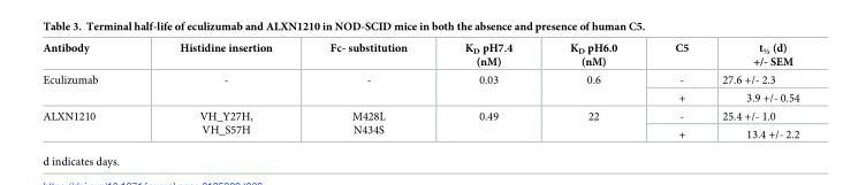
<table><thead><tr><td>Antibody</td><td>Histidine insertion</td><td>Fc- substitution</td><td>K<sub>D</sub> pH7.4 (nM)</td><td>K<sub>D</sub> pH6.0 (nM)</td><td>C5</td><td>t<sub>½</sub> (d) +/- SEM</td></tr></thead><tbody><tr><td rowspan="2">Eculizumab</td><td rowspan="2">-</td><td rowspan="2">-</td><td rowspan="2">0.03</td><td rowspan="2">0.6</td><td>-</td><td>27.6 +/- 2.3</td></tr><tr><td>+</td><td>3.9 +/- 0.54</td></tr><tr><td rowspan="2">ALXN1210</td><td rowspan="2">VH_Y27H, VH_S57H</td><td rowspan="2">M428L N434S</td><td rowspan="2">0.49</td><td rowspan="2">22</td><td>-</td><td>25.4 +/- 1.0</td></tr><tr><td>+</td><td>13.4 +/- 2.2</td></tr></tbody></table>